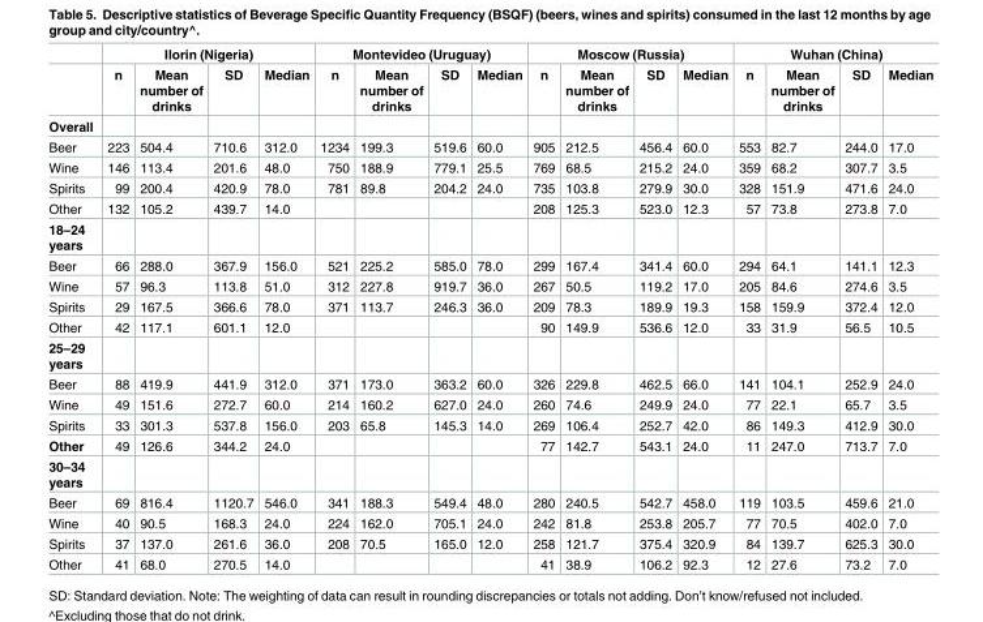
<table><thead><tr><td rowspan="2"></td><td colspan="4">Ilorin (Nigeria)</td><td colspan="4">Montevideo (Uruguay)</td><td colspan="4">Moscow (Russia)</td><td colspan="4">Wuhan (China)</td></tr><tr><td>n</td><td>Mean number of drinks</td><td>SD</td><td>Median</td><td>n</td><td>Mean number of drinks</td><td>SD</td><td>Median</td><td>n</td><td>Mean number of drinks</td><td>SD</td><td>Median</td><td>n</td><td>Mean number of drinks</td><td>SD</td><td>Median</td></tr></thead><tbody><tr><td colspan="17">Overall</td></tr><tr><td>Beer</td><td>223</td><td>504.4</td><td>710.6</td><td>312.0</td><td>1234</td><td>199.3</td><td>519.6</td><td>60.0</td><td>905</td><td>212.5</td><td>456.4</td><td>60.0</td><td>553</td><td>82.7</td><td>244.0</td><td>17.0</td></tr><tr><td>Wine</td><td>146</td><td>113.4</td><td>201.6</td><td>48.0</td><td>750</td><td>188.9</td><td>779.1</td><td>25.5</td><td>769</td><td>68.5</td><td>215.2</td><td>24.0</td><td>359</td><td>68.2</td><td>307.7</td><td>3.5</td></tr><tr><td>Spirits</td><td>99</td><td>200.4</td><td>420.9</td><td>78.0</td><td>781</td><td>89.8</td><td>204.2</td><td>24.0</td><td>735</td><td>103.8</td><td>279.9</td><td>30.0</td><td>328</td><td>151.9</td><td>471.6</td><td>24.0</td></tr><tr><td>Other</td><td>132</td><td>105.2</td><td>439.7</td><td>14.0</td><td></td><td></td><td></td><td></td><td>208</td><td>125.3</td><td>523.0</td><td>12.3</td><td>57</td><td>73.8</td><td>273.8</td><td>7.0</td></tr><tr><td colspan="17">18–24 years</td></tr><tr><td>Beer</td><td>66</td><td>288.0</td><td>367.9</td><td>156.0</td><td>521</td><td>225.2</td><td>585.0</td><td>78.0</td><td>299</td><td>167.4</td><td>341.4</td><td>60.0</td><td>294</td><td>64.1</td><td>141.1</td><td>12.3</td></tr><tr><td>Wine</td><td>57</td><td>96.3</td><td>113.8</td><td>51.0</td><td>312</td><td>227.8</td><td>919.7</td><td>36.0</td><td>267</td><td>50.5</td><td>119.2</td><td>17.0</td><td>205</td><td>84.6</td><td>274.6</td><td>3.5</td></tr><tr><td>Spirits</td><td>29</td><td>167.5</td><td>366.6</td><td>78.0</td><td>371</td><td>113.7</td><td>246.3</td><td>36.0</td><td>209</td><td>78.3</td><td>189.9</td><td>19.3</td><td>158</td><td>159.9</td><td>372.4</td><td>12.0</td></tr><tr><td>Other</td><td>42</td><td>117.1</td><td>601.1</td><td>12.0</td><td></td><td></td><td></td><td></td><td>90</td><td>149.9</td><td>536.6</td><td>12.0</td><td>33</td><td>31.9</td><td>56.5</td><td>10.5</td></tr><tr><td colspan="17">25–29 years</td></tr><tr><td>Beer</td><td>88</td><td>419.9</td><td>441.9</td><td>312.0</td><td>371</td><td>173.0</td><td>363.2</td><td>60.0</td><td>326</td><td>229.8</td><td>462.5</td><td>66.0</td><td>141</td><td>104.1</td><td>252.9</td><td>24.0</td></tr><tr><td>Wine</td><td>49</td><td>151.6</td><td>272.7</td><td>60.0</td><td>214</td><td>160.2</td><td>627.0</td><td>24.0</td><td>260</td><td>74.6</td><td>249.9</td><td>24.0</td><td>77</td><td>22.1</td><td>65.7</td><td>3.5</td></tr><tr><td>Spirits</td><td>33</td><td>301.3</td><td>537.8</td><td>156.0</td><td>203</td><td>65.8</td><td>145.3</td><td>14.0</td><td>269</td><td>106.4</td><td>252.7</td><td>42.0</td><td>86</td><td>149.3</td><td>412.9</td><td>30.0</td></tr><tr><td>Other</td><td>49</td><td>126.6</td><td>344.2</td><td>24.0</td><td></td><td></td><td></td><td></td><td>77</td><td>142.7</td><td>543.1</td><td>24.0</td><td>11</td><td>247.0</td><td>713.7</td><td>7.0</td></tr><tr><td colspan="17">30–34 years</td></tr><tr><td>Beer</td><td>69</td><td>816.4</td><td>1120.7</td><td>546.0</td><td>341</td><td>188.3</td><td>549.4</td><td>48.0</td><td>280</td><td>240.5</td><td>542.7</td><td>458.0</td><td>119</td><td>103.5</td><td>459.6</td><td>21.0</td></tr><tr><td>Wine</td><td>40</td><td>90.5</td><td>168.3</td><td>24.0</td><td>224</td><td>162.0</td><td>705.1</td><td>24.0</td><td>242</td><td>81.8</td><td>253.8</td><td>205.7</td><td>77</td><td>70.5</td><td>402.0</td><td>7.0</td></tr><tr><td>Spirits</td><td>37</td><td>137.0</td><td>261.6</td><td>36.0</td><td>208</td><td>70.5</td><td>165.0</td><td>12.0</td><td>258</td><td>121.7</td><td>375.4</td><td>320.9</td><td>84</td><td>139.7</td><td>625.3</td><td>30.0</td></tr><tr><td>Other</td><td>41</td><td>68.0</td><td>270.5</td><td>14.0</td><td></td><td></td><td></td><td></td><td>41</td><td>38.9</td><td>106.2</td><td>92.3</td><td>12</td><td>27.6</td><td>73.2</td><td>7.0</td></tr></tbody></table>